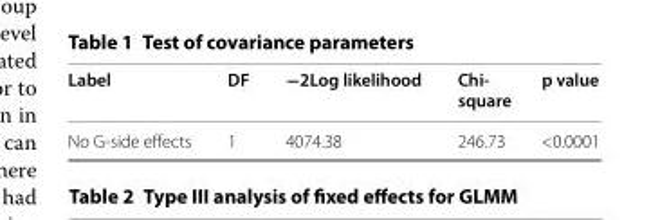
<table><thead><tr><td>Label</td><td>DF</td><td>−2Log likelihood</td><td>Chi- square</td><td>p value</td></tr></thead><tbody><tr><td>No G-side effects</td><td>1</td><td>4074.38</td><td>246.73</td><td>&lt;0.0001</td></tr></tbody></table>